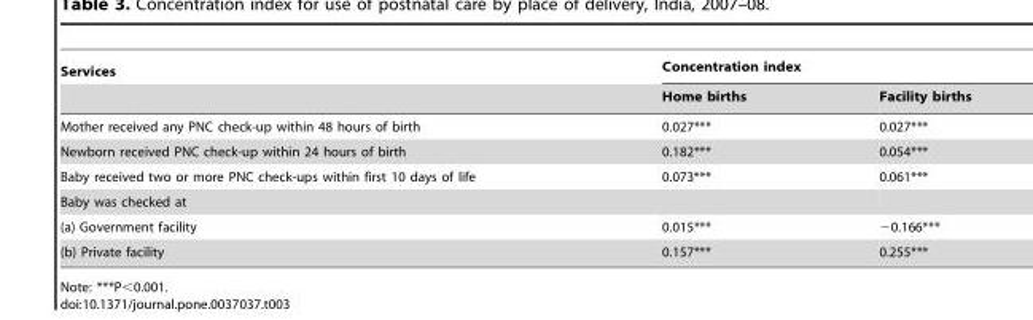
<table><thead><tr><td rowspan="2">Services</td><td colspan="2">Concentration index</td></tr><tr><td>Home births</td><td>Facility births</td></tr></thead><tbody><tr><td>Mother received any PNC check-up within 48 hours of birth</td><td>0.027***</td><td>0.027***</td></tr><tr><td>Newborn received PNC check-up within 24 hours of birth</td><td>0.182***</td><td>0.054***</td></tr><tr><td>Baby received two or more PNC check-ups within first 10 days of life</td><td>0.073***</td><td>0.061***</td></tr><tr><td colspan="3">Baby was checked at</td></tr><tr><td>(a) Government facility</td><td>0.015***</td><td>−0.166***</td></tr><tr><td>(b) Private facility</td><td>0.157***</td><td>0.255***</td></tr></tbody></table>